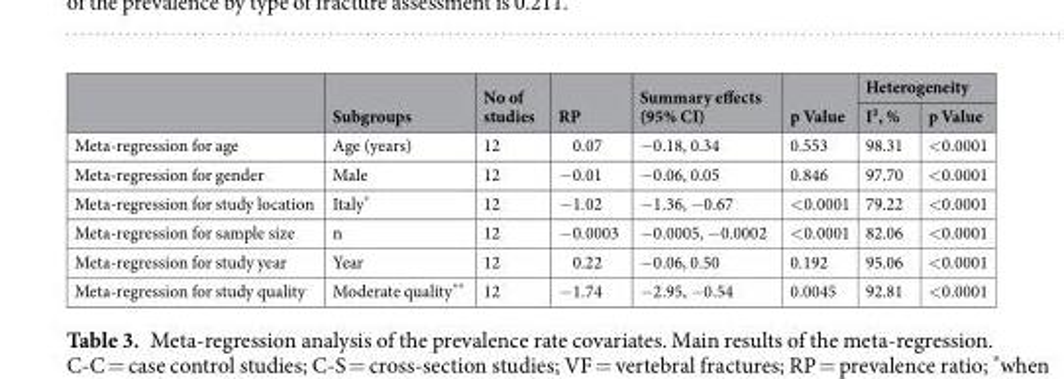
<table><thead><tr><td rowspan="2"></td><td rowspan="2">Subgroups</td><td rowspan="2">No of studies</td><td rowspan="2">RP</td><td rowspan="2">Summary effects (95% CI)</td><td rowspan="2">p Value</td><td colspan="2">Heterogeneity</td></tr><tr><td>I², %</td><td>p Value</td></tr></thead><tbody><tr><td>Meta-regression for age</td><td>Age (years)</td><td>12</td><td>0.07</td><td>−0.18, 0.34</td><td>0.553</td><td>98.31</td><td>&lt;0.0001</td></tr><tr><td>Meta-regression for gender</td><td>Male</td><td>12</td><td>−0.01</td><td>−0.06, 0.05</td><td>0.846</td><td>97.70</td><td>&lt;0.0001</td></tr><tr><td>Meta-regression for study location</td><td>Italy*</td><td>12</td><td>−1.02</td><td>−1.36, −0.67</td><td>&lt;0.0001</td><td>79.22</td><td>&lt;0.0001</td></tr><tr><td>Meta-regression for sample size</td><td>n</td><td>12</td><td>−0.0003</td><td>−0.0005, −0.0002</td><td>&lt;0.0001</td><td>82.06</td><td>&lt;0.0001</td></tr><tr><td>Meta-regression for study year</td><td>Year</td><td>12</td><td>0.22</td><td>−0.06, 0.50</td><td>0.192</td><td>95.06</td><td>&lt;0.0001</td></tr><tr><td>Meta-regression for study quality</td><td>Moderate quality**</td><td>12</td><td>−1.74</td><td>−2.95, −0.54</td><td>0.0045</td><td>92.81</td><td>&lt;0.0001</td></tr></tbody></table>